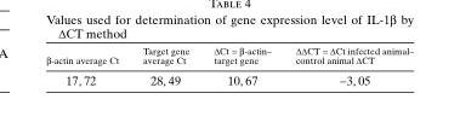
<table><thead><tr><td>β-actin average Ct</td><td>Target gene average Ct</td><td>ΔCt = β-actin– target gene</td><td>ΔΔCT = ΔCt infected animal– control animal ΔCT</td></tr></thead><tbody><tr><td>17, 72</td><td>28, 49</td><td>10, 67</td><td>−3, 05</td></tr></tbody></table>